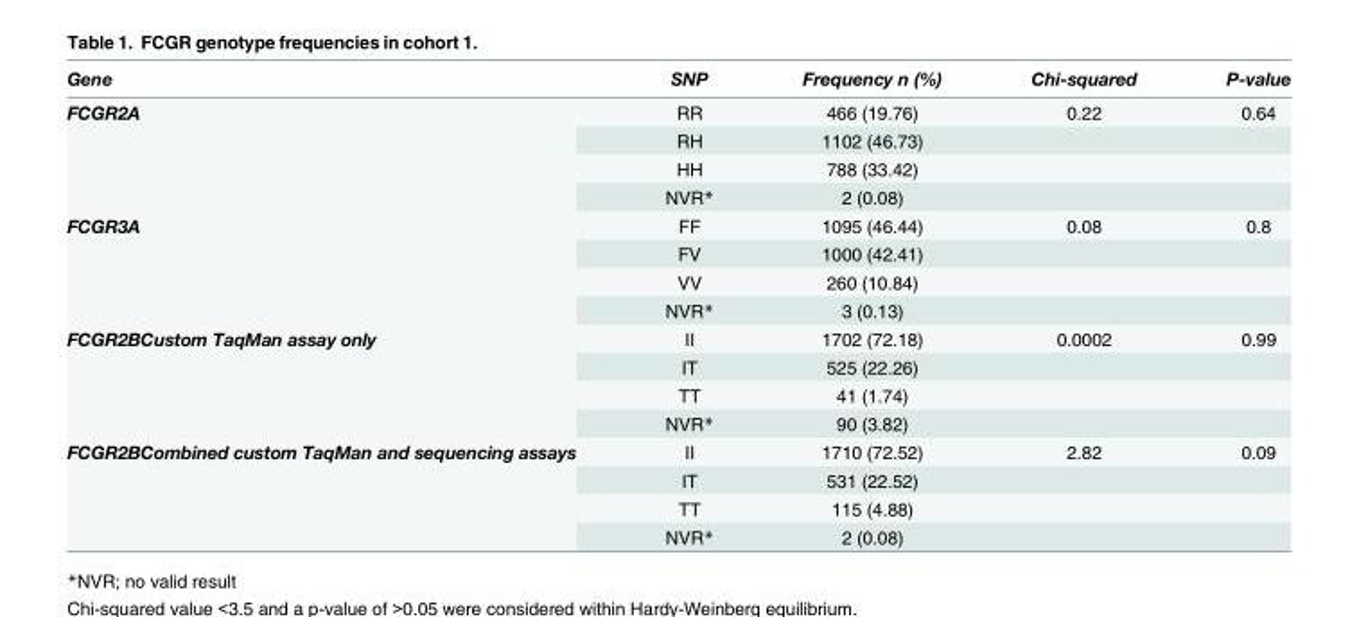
<table><thead><tr><td>Gene</td><td>SNP</td><td>Frequency n (%)</td><td>Chi-squared</td><td>P-value</td></tr></thead><tbody><tr><td rowspan="4">FCGR2A</td><td>RR</td><td>466 (19.76)</td><td>0.22</td><td>0.64</td></tr><tr><td>RH</td><td>1102 (46.73)</td><td></td><td></td></tr><tr><td>HH</td><td>788 (33.42)</td><td></td><td></td></tr><tr><td>NVR*</td><td>2 (0.08)</td><td></td><td></td></tr><tr><td rowspan="4">FCGR3A</td><td>FF</td><td>1095 (46.44)</td><td>0.08</td><td>0.8</td></tr><tr><td>FV</td><td>1000 (42.41)</td><td></td><td></td></tr><tr><td>VV</td><td>260 (10.84)</td><td></td><td></td></tr><tr><td>NVR*</td><td>3 (0.13)</td><td></td><td></td></tr><tr><td rowspan="4">FCGR2BCustom TaqMan assay only</td><td>II</td><td>1702 (72.18)</td><td>0.0002</td><td>0.99</td></tr><tr><td>IT</td><td>525 (22.26)</td><td></td><td></td></tr><tr><td>TT</td><td>41 (1.74)</td><td></td><td></td></tr><tr><td>NVR*</td><td>90 (3.82)</td><td></td><td></td></tr><tr><td rowspan="4">FCGR2BCombined custom TaqMan and sequencing assays</td><td>II</td><td>1710 (72.52)</td><td>2.82</td><td>0.09</td></tr><tr><td>IT</td><td>531 (22.52)</td><td></td><td></td></tr><tr><td>TT</td><td>115 (4.88)</td><td></td><td></td></tr><tr><td>NVR*</td><td>2 (0.08)</td><td></td><td></td></tr></tbody></table>